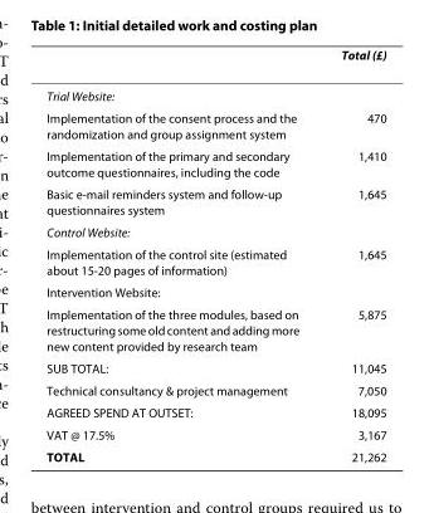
<table><thead><tr><td></td><td>Total (£)</td></tr></thead><tbody><tr><td colspan="2">Trial Website:</td></tr><tr><td>Implementation of the consent process and the randomization and group assignment system</td><td>470</td></tr><tr><td>Implementation of the primary and secondary outcome questionnaires, including the code</td><td>1,410</td></tr><tr><td>Basic e-mail reminders system and follow-up questionnaires system</td><td>1,645</td></tr><tr><td colspan="2">Control Website:</td></tr><tr><td>Implementation of the control site (estimated about 15-20 pages of information)</td><td>1,645</td></tr><tr><td colspan="2">Intervention Website:</td></tr><tr><td>Implementation of the three modules, based on restructuring some old content and adding more new content provided by research team</td><td>5,875</td></tr><tr><td>SUB TOTAL:</td><td>11,045</td></tr><tr><td>Technical consultancy &amp; project management</td><td>7,050</td></tr><tr><td>AGREED SPEND AT OUTSET:</td><td>18,095</td></tr><tr><td>VAT @ 17.5%</td><td>3,167</td></tr><tr><td>TOTAL</td><td>21,262</td></tr></tbody></table>